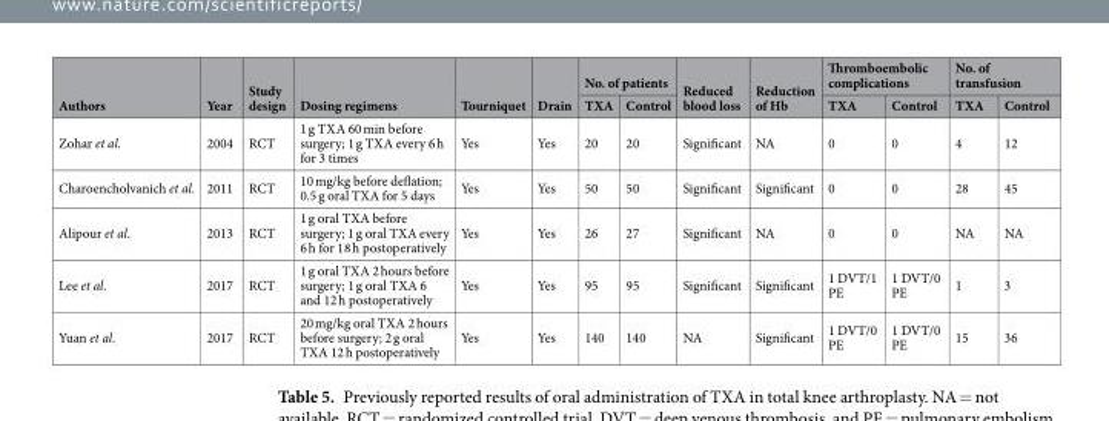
<table><thead><tr><td rowspan="2">Authors</td><td rowspan="2">Year</td><td rowspan="2">Study design</td><td rowspan="2">Dosing regimens</td><td rowspan="2">Tourniquet</td><td rowspan="2">Drain</td><td colspan="2">No. of patients</td><td rowspan="2">Reduced blood loss</td><td rowspan="2">Reduction of Hb</td><td colspan="2">Thromboembolic complications</td><td colspan="2">No. of transfusion</td></tr><tr><td>TXA</td><td>Control</td><td>TXA</td><td>Control</td><td>TXA</td><td>Control</td></tr></thead><tbody><tr><td>Zohar et al.</td><td>2004</td><td>RCT</td><td>1 g TXA 60 min before surgery; 1 g TXA every 6 h for 3 times</td><td>Yes</td><td>Yes</td><td>20</td><td>20</td><td>Significant</td><td>NA</td><td>0</td><td>0</td><td>4</td><td>12</td></tr><tr><td>Charoencholvanich et al.</td><td>2011</td><td>RCT</td><td>10 mg/kg before deflation; 0.5 g oral TXA for 5 days</td><td>Yes</td><td>Yes</td><td>50</td><td>50</td><td>Significant</td><td>Significant</td><td>0</td><td>0</td><td>28</td><td>45</td></tr><tr><td>Alipour et al.</td><td>2013</td><td>RCT</td><td>1 g oral TXA before surgery; 1 g oral TXA every 6 h for 18 h postoperatively</td><td>Yes</td><td>Yes</td><td>26</td><td>27</td><td>Significant</td><td>NA</td><td>0</td><td>0</td><td>NA</td><td>NA</td></tr><tr><td>Lee et al.</td><td>2017</td><td>RCT</td><td>1 g oral TXA 2 hours before surgery; 1 g oral TXA 6 and 12 h postoperatively</td><td>Yes</td><td>Yes</td><td>95</td><td>95</td><td>Significant</td><td>Significant</td><td>1 DVT/1 PE</td><td>1 DVT/0 PE</td><td>1</td><td>3</td></tr><tr><td>Yuan et al.</td><td>2017</td><td>RCT</td><td>20 mg/kg oral TXA 2 hours before surgery; 2 g oral TXA 12 h postoperatively</td><td>Yes</td><td>Yes</td><td>140</td><td>140</td><td>NA</td><td>Significant</td><td>1 DVT/0 PE</td><td>1 DVT/0 PE</td><td>15</td><td>36</td></tr></tbody></table>